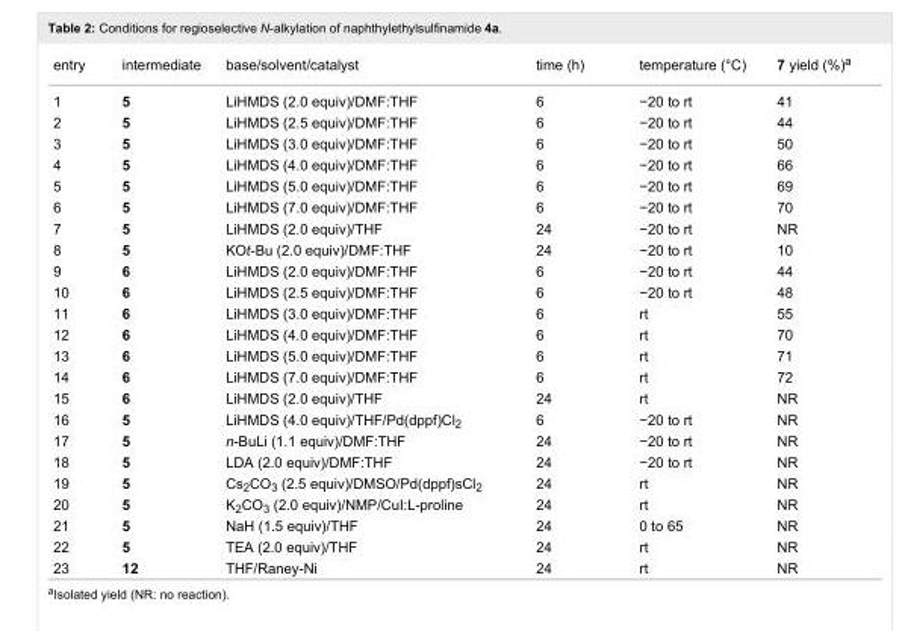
<table><tbody><tr><td>entry</td><td>intermediate</td><td>base/solvent/catalyst</td><td>time (h)</td><td>temperature (°C)</td><td>7 yield (%)<sup>a</sup></td></tr><tr><td>1</td><td>5</td><td>LiHMDS (2.0 equiv)/DMF:THF</td><td>6</td><td>−20 to rt</td><td>41</td></tr><tr><td>2</td><td>5</td><td>LiHMDS (2.5 equiv)/DMF:THF</td><td>6</td><td>−20 to rt</td><td>44</td></tr><tr><td>3</td><td>5</td><td>LiHMDS (3.0 equiv)/DMF:THF</td><td>6</td><td>−20 to rt</td><td>50</td></tr><tr><td>4</td><td>5</td><td>LiHMDS (4.0 equiv)/DMF:THF</td><td>6</td><td>−20 to rt</td><td>66</td></tr><tr><td>5</td><td>5</td><td>LiHMDS (5.0 equiv)/DMF:THF</td><td>6</td><td>−20 to rt</td><td>69</td></tr><tr><td>6</td><td>5</td><td>LiHMDS (7.0 equiv)/DMF:THF</td><td>6</td><td>−20 to rt</td><td>70</td></tr><tr><td>7</td><td>5</td><td>LiHMDS (2.0 equiv)/THF</td><td>24</td><td>−20 to rt</td><td>NR</td></tr><tr><td>8</td><td>5</td><td>KOt-Bu (2.0 equiv)/DMF:THF</td><td>24</td><td>−20 to rt</td><td>10</td></tr><tr><td>9</td><td>6</td><td>LiHMDS (2.0 equiv)/DMF:THF</td><td>6</td><td>−20 to rt</td><td>44</td></tr><tr><td>10</td><td>6</td><td>LiHMDS (2.5 equiv)/DMF:THF</td><td>6</td><td>−20 to rt</td><td>48</td></tr><tr><td>11</td><td>6</td><td>LiHMDS (3.0 equiv)/DMF:THF</td><td>6</td><td>rt</td><td>55</td></tr><tr><td>12</td><td>6</td><td>LiHMDS (4.0 equiv)/DMF:THF</td><td>6</td><td>rt</td><td>70</td></tr><tr><td>13</td><td>6</td><td>LiHMDS (5.0 equiv)/DMF:THF</td><td>6</td><td>rt</td><td>71</td></tr><tr><td>14</td><td>6</td><td>LiHMDS (7.0 equiv)/DMF:THF</td><td>6</td><td>rt</td><td>72</td></tr><tr><td>15</td><td>6</td><td>LiHMDS (2.0 equiv)/THF</td><td>24</td><td>rt</td><td>NR</td></tr><tr><td>16</td><td>5</td><td>LiHMDS (4.0 equiv)/THF/Pd(dppf)Cl<sub>2</sub></td><td>6</td><td>−20 to rt</td><td>NR</td></tr><tr><td>17</td><td>5</td><td>n-BuLi (1.1 equiv)/DMF:THF</td><td>24</td><td>−20 to rt</td><td>NR</td></tr><tr><td>18</td><td>5</td><td>LDA (2.0 equiv)/DMF:THF</td><td>24</td><td>−20 to rt</td><td>NR</td></tr><tr><td>19</td><td>5</td><td>Cs<sub>2</sub>CO<sub>3</sub> (2.5 equiv)/DMSO/Pd(dppf)sCl<sub>2</sub></td><td>24</td><td>rt</td><td>NR</td></tr><tr><td>20</td><td>5</td><td>K<sub>2</sub>CO<sub>3</sub> (2.0 equiv)/NMP/CuI:L-proline</td><td>24</td><td>rt</td><td>NR</td></tr><tr><td>21</td><td>5</td><td>NaH (1.5 equiv)/THF</td><td>24</td><td>0 to 65</td><td>NR</td></tr><tr><td>22</td><td>5</td><td>TEA (2.0 equiv)/THF</td><td>24</td><td>rt</td><td>NR</td></tr><tr><td>23</td><td>12</td><td>THF/Raney-Ni</td><td>24</td><td>rt</td><td>NR</td></tr></tbody></table>